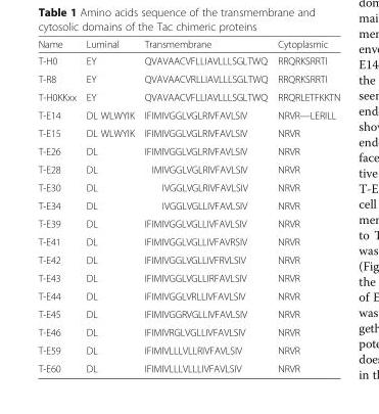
<table><thead><tr><td>Name</td><td>Luminal</td><td>Transmembrane</td><td>Cytoplasmic</td></tr></thead><tbody><tr><td>T-H0</td><td>EY</td><td>QVAVAACVFLLIAVLLLSGLTWQ</td><td>RRQRKSRRTI</td></tr><tr><td>T-R8</td><td>EY</td><td>QVAVAACVRLLIAVLLLSGLTWQ</td><td>RRQRKSRRTI</td></tr><tr><td>T-H0KKxx</td><td>EY</td><td>QVAVAACVFLLIAVLLLSGLTWQ</td><td>RRQRLETFKKTN</td></tr><tr><td>T-E14</td><td>DL WLWYIK</td><td>IFIMIVGGLVGLRIVFAVLSIV</td><td>NRVR—LERILL</td></tr><tr><td>T-E15</td><td>DL WLWYIK</td><td>IFIMIVGGLVGLRIVFAVLSIV</td><td>NRVR</td></tr><tr><td>T-E26</td><td>DL</td><td>IFIMIVGGLVGLRIVFAVLSIV</td><td>NRVR</td></tr><tr><td>T-E28</td><td>DL</td><td>IMIVGGLVGLRIVFAVLSIV</td><td>NRVR</td></tr><tr><td>T-E30</td><td>DL</td><td>IVGGLVGLRIVFAVLSIV</td><td>NRVR</td></tr><tr><td>T-E34</td><td>DL</td><td>IVGGLVGLLIVFAVLSIV</td><td>NRVR</td></tr><tr><td>T-E39</td><td>DL</td><td>IFIMIVGGLVGLLIVFAVLSIV</td><td>NRVR</td></tr><tr><td>T-E41</td><td>DL</td><td>IFIMIVGGLVGLLIVFAVRSIV</td><td>NRVR</td></tr><tr><td>T-E42</td><td>DL</td><td>IFIMIVGGLVGLLIVFRVLSIV</td><td>NRVR</td></tr><tr><td>T-E43</td><td>DL</td><td>IFIMIVGGLVGLLIRFAVLSIV</td><td>NRVR</td></tr><tr><td>T-E44</td><td>DL</td><td>IFIMIVGGLVRLLIVFAVLSIV</td><td>NRVR</td></tr><tr><td>T-E45</td><td>DL</td><td>IFIMIVGGRVGLLIVFAVLSIV</td><td>NRVR</td></tr><tr><td>T-E46</td><td>DL</td><td>IFIMIVRGLVGLLIVFAVLSIV</td><td>NRVR</td></tr><tr><td>T-E59</td><td>DL</td><td>IFIMIVLLLVLLRIVFAVLSIV</td><td>NRVR</td></tr><tr><td>T-E60</td><td>DL</td><td>IFIMIVLLLVLLLIVFAVLSIV</td><td>NRVR</td></tr></tbody></table>